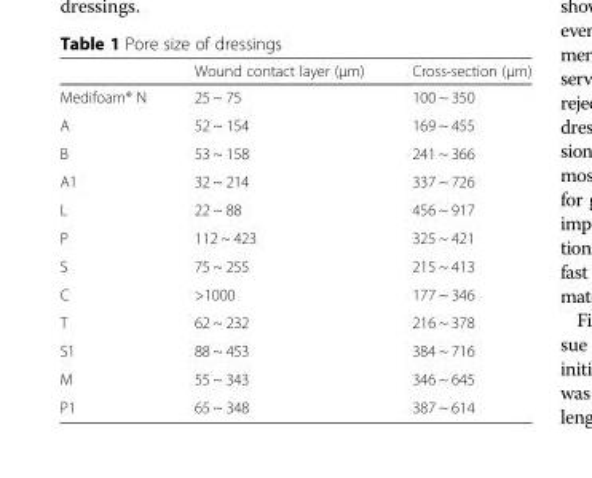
<table><thead><tr><td></td><td>Wound contact layer (μm)</td><td>Cross-section (μm)</td></tr></thead><tbody><tr><td>Medifoam® N</td><td>25 ~ 75</td><td>100 ~ 350</td></tr><tr><td>A</td><td>52 ~ 154</td><td>169 ~ 455</td></tr><tr><td>B</td><td>53 ~ 158</td><td>241 ~ 366</td></tr><tr><td>A1</td><td>32 ~ 214</td><td>337 ~ 726</td></tr><tr><td>L</td><td>22 ~ 88</td><td>456 ~ 917</td></tr><tr><td>P</td><td>112 ~ 423</td><td>325 ~ 421</td></tr><tr><td>S</td><td>75 ~ 255</td><td>215 ~ 413</td></tr><tr><td>C</td><td>&gt;1000</td><td>177 ~ 346</td></tr><tr><td>T</td><td>62 ~ 232</td><td>216 ~ 378</td></tr><tr><td>S1</td><td>88 ~ 453</td><td>384 ~ 716</td></tr><tr><td>M</td><td>55 ~ 343</td><td>346 ~ 645</td></tr><tr><td>P1</td><td>65 ~ 348</td><td>387 ~ 614</td></tr></tbody></table>